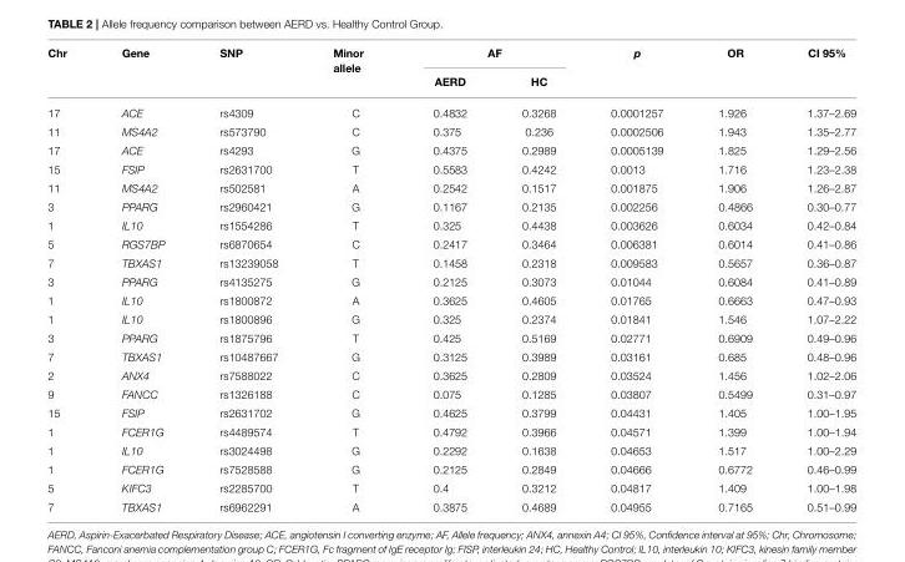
<table><thead><tr><td rowspan="2">Chr</td><td rowspan="2">Gene</td><td rowspan="2">SNP</td><td rowspan="2">Minor allele</td><td colspan="2">AF</td><td rowspan="2">p</td><td rowspan="2">OR</td><td rowspan="2">CI 95%</td></tr><tr><td>AERD</td><td>HC</td></tr></thead><tbody><tr><td>17</td><td>ACE</td><td>rs4309</td><td>C</td><td>0.4832</td><td>0.3268</td><td>0.0001257</td><td>1.926</td><td>1.37–2.69</td></tr><tr><td>11</td><td>MS4A2</td><td>rs573790</td><td>C</td><td>0.375</td><td>0.236</td><td>0.0002506</td><td>1.943</td><td>1.35–2.77</td></tr><tr><td>17</td><td>ACE</td><td>rs4293</td><td>G</td><td>0.4375</td><td>0.2989</td><td>0.0005139</td><td>1.825</td><td>1.29–2.56</td></tr><tr><td>15</td><td>FSIP</td><td>rs2631700</td><td>T</td><td>0.5583</td><td>0.4242</td><td>0.0013</td><td>1.716</td><td>1.23–2.38</td></tr><tr><td>11</td><td>MS4A2</td><td>rs502581</td><td>A</td><td>0.2542</td><td>0.1517</td><td>0.001875</td><td>1.906</td><td>1.26–2.87</td></tr><tr><td>3</td><td>PPARG</td><td>rs2960421</td><td>G</td><td>0.1167</td><td>0.2135</td><td>0.002256</td><td>0.4866</td><td>0.30–0.77</td></tr><tr><td>1</td><td>IL10</td><td>rs1554286</td><td>T</td><td>0.325</td><td>0.4438</td><td>0.003626</td><td>0.6034</td><td>0.42–0.84</td></tr><tr><td>5</td><td>RGS7BP</td><td>rs6870654</td><td>C</td><td>0.2417</td><td>0.3464</td><td>0.006381</td><td>0.6014</td><td>0.41–0.86</td></tr><tr><td>7</td><td>TBXAS1</td><td>rs13239058</td><td>T</td><td>0.1458</td><td>0.2318</td><td>0.009583</td><td>0.5657</td><td>0.36–0.87</td></tr><tr><td>3</td><td>PPARG</td><td>rs4135275</td><td>G</td><td>0.2125</td><td>0.3073</td><td>0.01044</td><td>0.6084</td><td>0.41–0.89</td></tr><tr><td>1</td><td>IL10</td><td>rs1800872</td><td>A</td><td>0.3625</td><td>0.4605</td><td>0.01765</td><td>0.6663</td><td>0.47–0.93</td></tr><tr><td>1</td><td>IL10</td><td>rs1800896</td><td>G</td><td>0.325</td><td>0.2374</td><td>0.01841</td><td>1.546</td><td>1.07–2.22</td></tr><tr><td>3</td><td>PPARG</td><td>rs1875796</td><td>T</td><td>0.425</td><td>0.5169</td><td>0.02771</td><td>0.6909</td><td>0.49–0.96</td></tr><tr><td>7</td><td>TBXAS1</td><td>rs10487667</td><td>G</td><td>0.3125</td><td>0.3989</td><td>0.03161</td><td>0.685</td><td>0.48–0.96</td></tr><tr><td>2</td><td>ANX4</td><td>rs7588022</td><td>C</td><td>0.3625</td><td>0.2809</td><td>0.03524</td><td>1.456</td><td>1.02–2.06</td></tr><tr><td>9</td><td>FANCC</td><td>rs1326188</td><td>C</td><td>0.075</td><td>0.1285</td><td>0.03807</td><td>0.5499</td><td>0.31–0.97</td></tr><tr><td>15</td><td>FSIP</td><td>rs2631702</td><td>G</td><td>0.4625</td><td>0.3799</td><td>0.04431</td><td>1.405</td><td>1.00–1.95</td></tr><tr><td>1</td><td>FCER1G</td><td>rs4489574</td><td>T</td><td>0.4792</td><td>0.3966</td><td>0.04571</td><td>1.399</td><td>1.00–1.94</td></tr><tr><td>1</td><td>IL10</td><td>rs3024498</td><td>G</td><td>0.2292</td><td>0.1638</td><td>0.04653</td><td>1.517</td><td>1.00–2.29</td></tr><tr><td>1</td><td>FCER1G</td><td>rs7528588</td><td>G</td><td>0.2125</td><td>0.2849</td><td>0.04666</td><td>0.6772</td><td>0.46–0.99</td></tr><tr><td>5</td><td>KIFC3</td><td>rs2285700</td><td>T</td><td>0.4</td><td>0.3212</td><td>0.04817</td><td>1.409</td><td>1.00–1.98</td></tr><tr><td>7</td><td>TBXAS1</td><td>rs6962291</td><td>A</td><td>0.3875</td><td>0.4689</td><td>0.04955</td><td>0.7165</td><td>0.51–0.99</td></tr></tbody></table>